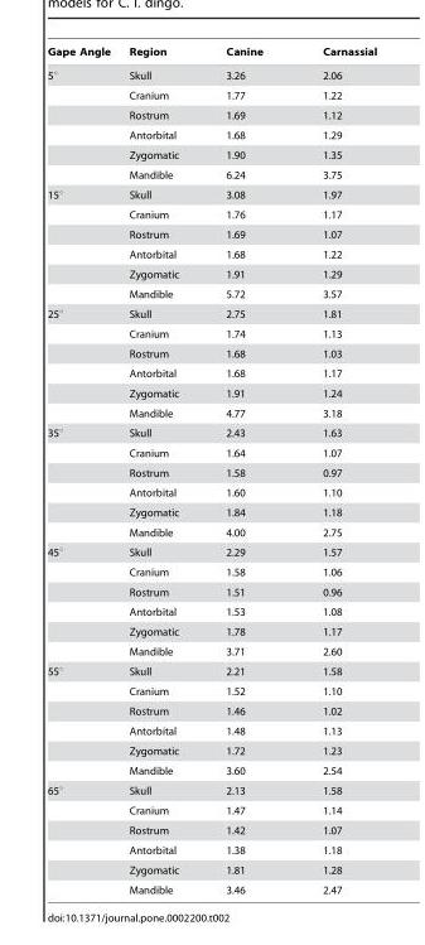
<table><thead><tr><td>Gape Angle</td><td>Region</td><td>Canine</td><td>Carnassial</td></tr></thead><tbody><tr><td rowspan="6">5°</td><td>Skull</td><td>3.26</td><td>2.06</td></tr><tr><td>Cranium</td><td>1.77</td><td>1.22</td></tr><tr><td>Rostrum</td><td>1.69</td><td>1.12</td></tr><tr><td>Antorbital</td><td>1.68</td><td>1.29</td></tr><tr><td>Zygomatic</td><td>1.90</td><td>1.35</td></tr><tr><td>Mandible</td><td>6.24</td><td>3.75</td></tr><tr><td rowspan="6">15°</td><td>Skull</td><td>3.08</td><td>1.97</td></tr><tr><td>Cranium</td><td>1.76</td><td>1.17</td></tr><tr><td>Rostrum</td><td>1.69</td><td>1.07</td></tr><tr><td>Antorbital</td><td>1.68</td><td>1.22</td></tr><tr><td>Zygomatic</td><td>1.91</td><td>1.29</td></tr><tr><td>Mandible</td><td>5.72</td><td>3.57</td></tr><tr><td rowspan="6">25°</td><td>Skull</td><td>2.75</td><td>1.81</td></tr><tr><td>Cranium</td><td>1.74</td><td>1.13</td></tr><tr><td>Rostrum</td><td>1.68</td><td>1.03</td></tr><tr><td>Antorbital</td><td>1.68</td><td>1.17</td></tr><tr><td>Zygomatic</td><td>1.91</td><td>1.24</td></tr><tr><td>Mandible</td><td>4.77</td><td>3.18</td></tr><tr><td rowspan="6">35°</td><td>Skull</td><td>2.43</td><td>1.63</td></tr><tr><td>Cranium</td><td>1.64</td><td>1.07</td></tr><tr><td>Rostrum</td><td>1.58</td><td>0.97</td></tr><tr><td>Antorbital</td><td>1.60</td><td>1.10</td></tr><tr><td>Zygomatic</td><td>1.84</td><td>1.18</td></tr><tr><td>Mandible</td><td>4.00</td><td>2.75</td></tr><tr><td rowspan="6">45°</td><td>Skull</td><td>2.29</td><td>1.57</td></tr><tr><td>Cranium</td><td>1.58</td><td>1.06</td></tr><tr><td>Rostrum</td><td>1.51</td><td>0.96</td></tr><tr><td>Antorbital</td><td>1.53</td><td>1.08</td></tr><tr><td>Zygomatic</td><td>1.78</td><td>1.17</td></tr><tr><td>Mandible</td><td>3.71</td><td>2.60</td></tr><tr><td rowspan="6">55°</td><td>Skull</td><td>2.21</td><td>1.58</td></tr><tr><td>Cranium</td><td>1.52</td><td>1.10</td></tr><tr><td>Rostrum</td><td>1.46</td><td>1.02</td></tr><tr><td>Antorbital</td><td>1.48</td><td>1.13</td></tr><tr><td>Zygomatic</td><td>1.72</td><td>1.23</td></tr><tr><td>Mandible</td><td>3.60</td><td>2.54</td></tr><tr><td rowspan="6">65°</td><td>Skull</td><td>2.13</td><td>1.58</td></tr><tr><td>Cranium</td><td>1.47</td><td>1.14</td></tr><tr><td>Rostrum</td><td>1.42</td><td>1.07</td></tr><tr><td>Antorbital</td><td>1.38</td><td>1.18</td></tr><tr><td>Zygomatic</td><td>1.81</td><td>1.28</td></tr><tr><td>Mandible</td><td>3.46</td><td>2.47</td></tr></tbody></table>